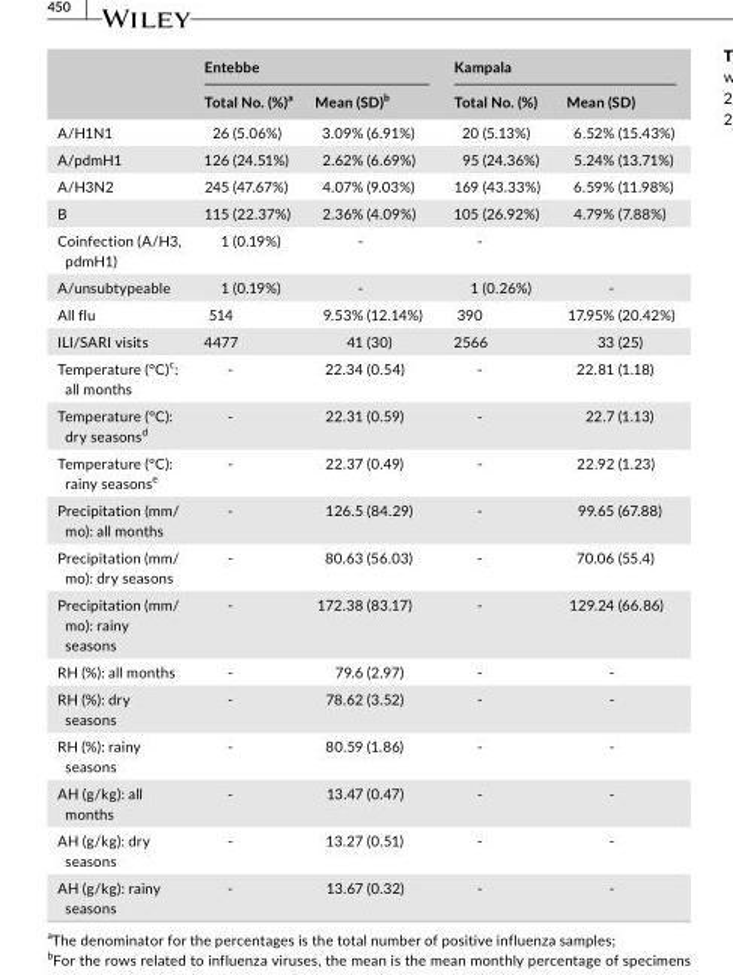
<table><thead><tr><td rowspan="2"></td><td colspan="2">Entebbe</td><td colspan="2">Kampala</td></tr><tr><td>Total No. (%)<sup>a</sup></td><td>Mean (SD)<sup>b</sup></td><td>Total No. (%)</td><td>Mean (SD)</td></tr></thead><tbody><tr><td>A/H1N1</td><td>26 (5.06%)</td><td>3.09% (6.91%)</td><td>20 (5.13%)</td><td>6.52% (15.43%)</td></tr><tr><td>A/pdmH1</td><td>126 (24.51%)</td><td>2.62% (6.69%)</td><td>95 (24.36%)</td><td>5.24% (13.71%)</td></tr><tr><td>A/H3N2</td><td>245 (47.67%)</td><td>4.07% (9.03%)</td><td>169 (43.33%)</td><td>6.59% (11.98%)</td></tr><tr><td>B</td><td>115 (22.37%)</td><td>2.36% (4.09%)</td><td>105 (26.92%)</td><td>4.79% (7.88%)</td></tr><tr><td>Coinfection (A/H3, pdmH1)</td><td>1 (0.19%)</td><td>-</td><td>-</td><td></td></tr><tr><td>A/unsubtypeable</td><td>1 (0.19%)</td><td>-</td><td>1 (0.26%)</td><td>-</td></tr><tr><td>All flu</td><td>514</td><td>9.53% (12.14%)</td><td>390</td><td>17.95% (20.42%)</td></tr><tr><td>ILI/SARI visits</td><td>4477</td><td>41 (30)</td><td>2566</td><td>33 (25)</td></tr><tr><td>Temperature (°C)<sup>c</sup>: all months</td><td>-</td><td>22.34 (0.54)</td><td>-</td><td>22.81 (1.18)</td></tr><tr><td>Temperature (°C): dry seasons<sup>d</sup></td><td>-</td><td>22.31 (0.59)</td><td>-</td><td>22.7 (1.13)</td></tr><tr><td>Temperature (°C): rainy seasons<sup>e</sup></td><td>-</td><td>22.37 (0.49)</td><td>-</td><td>22.92 (1.23)</td></tr><tr><td>Precipitation (mm/ mo): all months</td><td>-</td><td>126.5 (84.29)</td><td>-</td><td>99.65 (67.88)</td></tr><tr><td>Precipitation (mm/ mo): dry seasons</td><td>-</td><td>80.63 (56.03)</td><td>-</td><td>70.06 (55.4)</td></tr><tr><td>Precipitation (mm/ mo): rainy seasons</td><td>-</td><td>172.38 (83.17)</td><td>-</td><td>129.24 (66.86)</td></tr><tr><td>RH (%): all months</td><td>-</td><td>79.6 (2.97)</td><td>-</td><td>-</td></tr><tr><td>RH (%): dry seasons</td><td>-</td><td>78.62 (3.52)</td><td>-</td><td>-</td></tr><tr><td>RH (%): rainy seasons</td><td>-</td><td>80.59 (1.86)</td><td>-</td><td>-</td></tr><tr><td>AH (g/kg): all months</td><td>-</td><td>13.47 (0.47)</td><td>-</td><td>-</td></tr><tr><td>AH (g/kg): dry seasons</td><td>-</td><td>13.27 (0.51)</td><td>-</td><td>-</td></tr><tr><td>AH (g/kg): rainy seasons</td><td>-</td><td>13.67 (0.32)</td><td>-</td><td>-</td></tr></tbody></table>